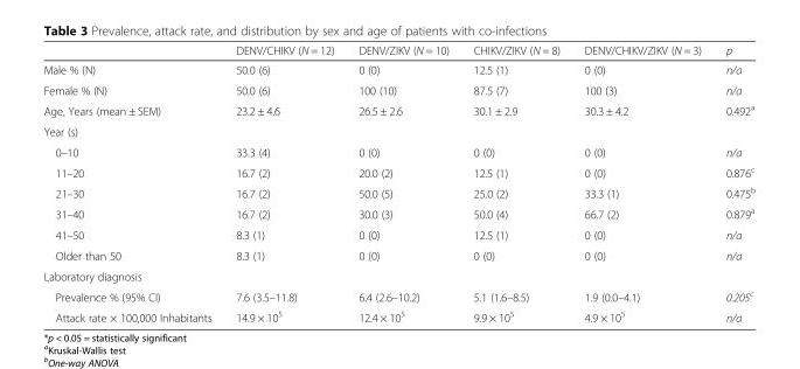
<table><thead><tr><td></td><td>DENV/CHIKV (N = 12)</td><td>DENV/ZIKV (N = 10)</td><td>CHIKV/ZIKV (N = 8)</td><td>DENV/CHIKV/ZIKV (N = 3)</td><td>p</td></tr></thead><tbody><tr><td>Male % (N)</td><td>50.0 (6)</td><td>0 (0)</td><td>12.5 (1)</td><td>0 (0)</td><td>n/a</td></tr><tr><td>Female % (N)</td><td>50.0 (6)</td><td>100 (10)</td><td>87.5 (7)</td><td>100 (3)</td><td>n/a</td></tr><tr><td>Age, Years (mean ± SEM)</td><td>23.2 ± 4.6</td><td>26.5 ± 2.6</td><td>30.1 ± 2.9</td><td>30.3 ± 4.2</td><td>0.492<sup>a</sup></td></tr><tr><td colspan="6">Year (s)</td></tr><tr><td>0–10</td><td>33.3 (4)</td><td>0 (0)</td><td>0 (0)</td><td>0 (0)</td><td>n/a</td></tr><tr><td>11–20</td><td>16.7 (2)</td><td>20.0 (2)</td><td>12.5 (1)</td><td>0 (0)</td><td>0.876<sup>c</sup></td></tr><tr><td>21–30</td><td>16.7 (2)</td><td>50.0 (5)</td><td>25.0 (2)</td><td>33.3 (1)</td><td>0.475<sup>b</sup></td></tr><tr><td>31–40</td><td>16.7 (2)</td><td>30.0 (3)</td><td>50.0 (4)</td><td>66.7 (2)</td><td>0.879<sup>a</sup></td></tr><tr><td>41–50</td><td>8.3 (1)</td><td>0 (0)</td><td>12.5 (1)</td><td>0 (0)</td><td>n/a</td></tr><tr><td>Older than 50</td><td>8.3 (1)</td><td>0 (0)</td><td>0 (0)</td><td>0 (0)</td><td>n/a</td></tr><tr><td colspan="6">Laboratory diagnosis</td></tr><tr><td>Prevalence % (95% CI)</td><td>7.6 (3.5–11.8)</td><td>6.4 (2.6–10.2)</td><td>5.1 (1.6–8.5)</td><td>1.9 (0.0–4.1)</td><td>0.205<sup>c</sup></td></tr><tr><td>Attack rate × 100,000 Inhabitants</td><td>14.9 × 10<sup>5</sup></td><td>12.4 × 10<sup>5</sup></td><td>9.9 × 10<sup>5</sup></td><td>4.9 × 10<sup>5</sup></td><td>n/a</td></tr></tbody></table>